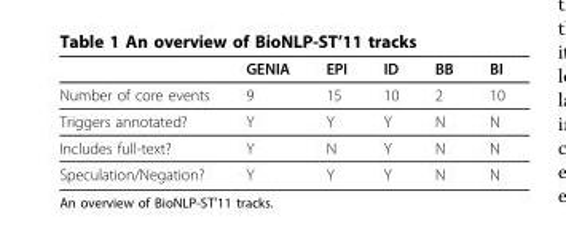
<table><thead><tr><td></td><td>GENIA</td><td>EPI</td><td>ID</td><td>BB</td><td>BI</td></tr></thead><tbody><tr><td>Number of core events</td><td>9</td><td>15</td><td>10</td><td>2</td><td>10</td></tr><tr><td>Triggers annotated?</td><td>Y</td><td>Y</td><td>Y</td><td>N</td><td>N</td></tr><tr><td>Includes full-text?</td><td>Y</td><td>N</td><td>Y</td><td>N</td><td>N</td></tr><tr><td>Speculation/Negation?</td><td>Y</td><td>Y</td><td>Y</td><td>N</td><td>N</td></tr></tbody></table>